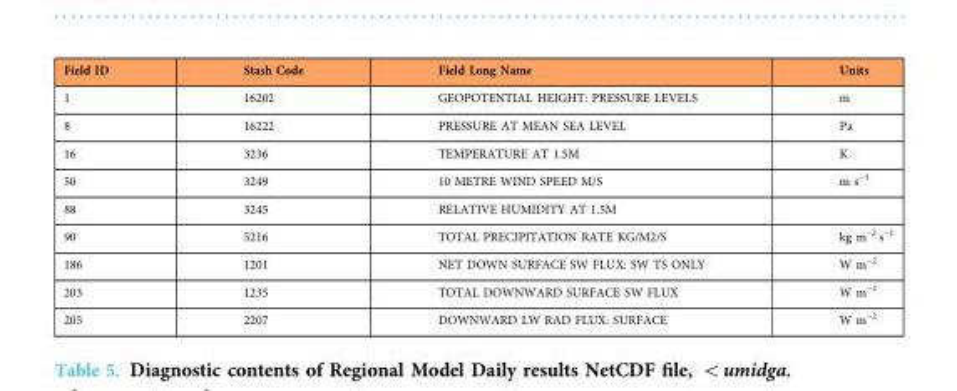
<table><thead><tr><td>Field ID</td><td>Stash Code</td><td>Field Long Name</td><td>Units</td></tr></thead><tbody><tr><td>1</td><td>16202</td><td>GEOPOTENTIAL HEIGHT: PRESSURE LEVELS</td><td>m</td></tr><tr><td>8</td><td>16222</td><td>PRESSURE AT MEAN SEA LEVEL</td><td>Pa</td></tr><tr><td>16</td><td>3236</td><td>TEMPERATURE AT 1.5M</td><td>K</td></tr><tr><td>50</td><td>3249</td><td>10 METRE WIND SPEED M/S</td><td>m s<sup>−1</sup></td></tr><tr><td>88</td><td>3245</td><td>RELATIVE HUMIDITY AT 1.5M</td><td></td></tr><tr><td>90</td><td>5216</td><td>TOTAL PRECIPITATION RATE KG/M2/S</td><td>kg m<sup>−2</sup> s<sup>−1</sup></td></tr><tr><td>186</td><td>1201</td><td>NET DOWN SURFACE SW FLUX: SW TS ONLY</td><td>W m<sup>−2</sup></td></tr><tr><td>203</td><td>1235</td><td>TOTAL DOWNWARD SURFACE SW FLUX</td><td>W m<sup>−2</sup></td></tr><tr><td>205</td><td>2207</td><td>DOWNWARD LW RAD FLUX: SURFACE</td><td>W m<sup>−2</sup></td></tr></tbody></table>